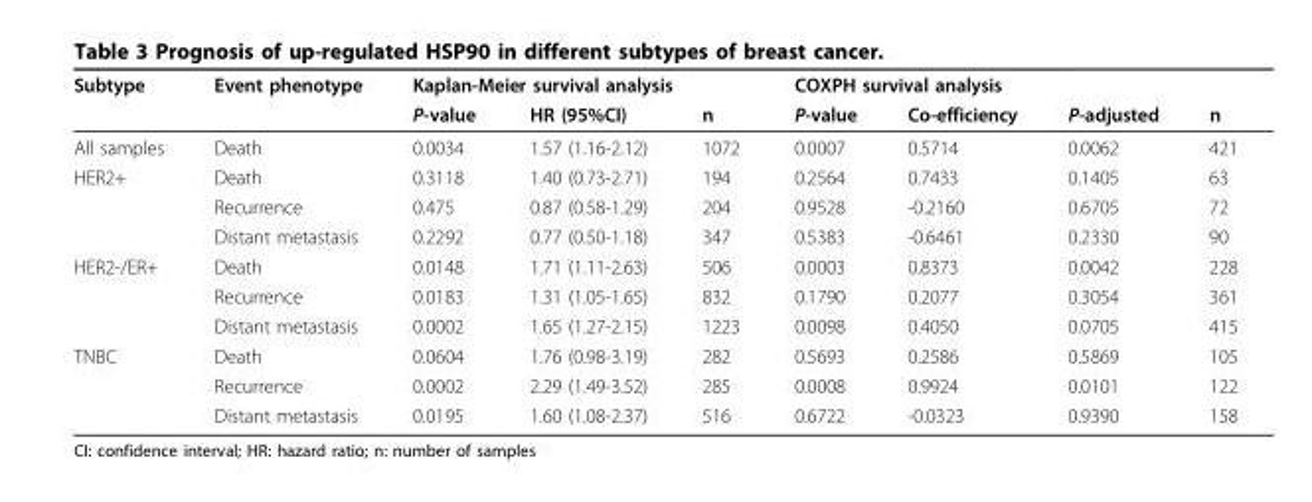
<table><thead><tr><td rowspan="2">Subtype</td><td rowspan="2">Event phenotype</td><td colspan="3">Kaplan-Meier survival analysis</td><td colspan="4">COXPH survival analysis</td></tr><tr><td>P-value</td><td>HR (95%CI)</td><td>n</td><td>P-value</td><td>Co-efficiency</td><td>P-adjusted</td><td>n</td></tr></thead><tbody><tr><td>All samples</td><td>Death</td><td>0.0034</td><td>1.57 (1.16-2.12)</td><td>1072</td><td>0.0007</td><td>0.5714</td><td>0.0062</td><td>421</td></tr><tr><td rowspan="3">HER2+</td><td>Death</td><td>0.3118</td><td>1.40 (0.73-2.71)</td><td>194</td><td>0.2564</td><td>0.7433</td><td>0.1405</td><td>63</td></tr><tr><td>Recurrence</td><td>0.475</td><td>0.87 (0.58-1.29)</td><td>204</td><td>0.9528</td><td>-0.2160</td><td>0.6705</td><td>72</td></tr><tr><td>Distant metastasis</td><td>0.2292</td><td>0.77 (0.50-1.18)</td><td>347</td><td>0.5383</td><td>-0.6461</td><td>0.2330</td><td>90</td></tr><tr><td rowspan="3">HER2-/ER+</td><td>Death</td><td>0.0148</td><td>1.71 (1.11-2.63)</td><td>506</td><td>0.0003</td><td>0.8373</td><td>0.0042</td><td>228</td></tr><tr><td>Recurrence</td><td>0.0183</td><td>1.31 (1.05-1.65)</td><td>832</td><td>0.1790</td><td>0.2077</td><td>0.3054</td><td>361</td></tr><tr><td>Distant metastasis</td><td>0.0002</td><td>1.65 (1.27-2.15)</td><td>1223</td><td>0.0098</td><td>0.4050</td><td>0.0705</td><td>415</td></tr><tr><td rowspan="3">TNBC</td><td>Death</td><td>0.0604</td><td>1.76 (0.98-3.19)</td><td>282</td><td>0.5693</td><td>0.2586</td><td>0.5869</td><td>105</td></tr><tr><td>Recurrence</td><td>0.0002</td><td>2.29 (1.49-3.52)</td><td>285</td><td>0.0008</td><td>0.9924</td><td>0.0101</td><td>122</td></tr><tr><td>Distant metastasis</td><td>0.0195</td><td>1.60 (1.08-2.37)</td><td>516</td><td>0.6722</td><td>-0.0323</td><td>0.9390</td><td>158</td></tr></tbody></table>